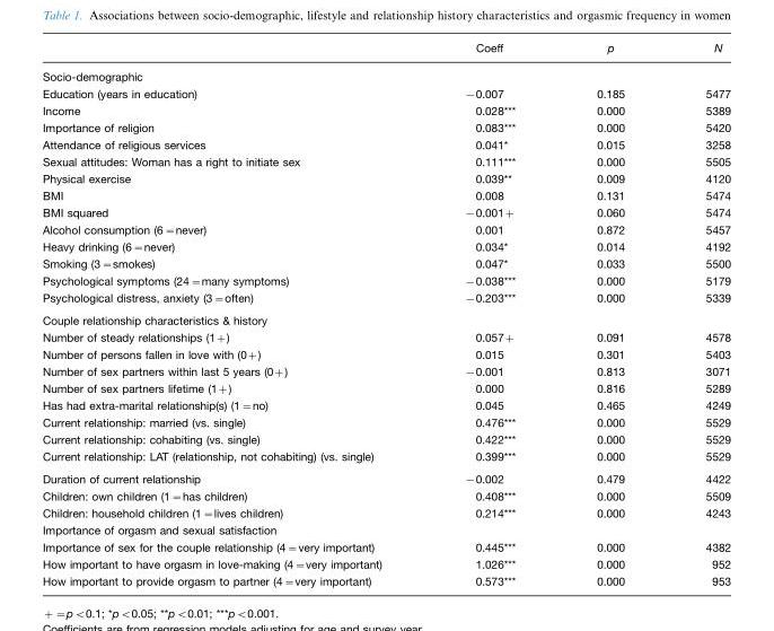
<table><thead><tr><td></td><td>Coeff</td><td>p</td><td>N</td></tr></thead><tbody><tr><td colspan="4">Socio-demographic</td></tr><tr><td>Education (years in education)</td><td>−0.007</td><td>0.185</td><td>5477</td></tr><tr><td>Income</td><td>0.028***</td><td>0.000</td><td>5389</td></tr><tr><td>Importance of religion</td><td>0.083***</td><td>0.000</td><td>5420</td></tr><tr><td>Attendance of religious services</td><td>0.041*</td><td>0.015</td><td>3258</td></tr><tr><td>Sexual attitudes: Woman has a right to initiate sex</td><td>0.111***</td><td>0.000</td><td>5505</td></tr><tr><td>Physical exercise</td><td>0.039**</td><td>0.009</td><td>4120</td></tr><tr><td>BMI</td><td>0.008</td><td>0.131</td><td>5474</td></tr><tr><td>BMI squared</td><td>−0.001+</td><td>0.060</td><td>5474</td></tr><tr><td>Alcohol consumption (6=never)</td><td>0.001</td><td>0.872</td><td>5457</td></tr><tr><td>Heavy drinking (6=never)</td><td>0.034*</td><td>0.014</td><td>4192</td></tr><tr><td>Smoking (3=smokes)</td><td>0.047*</td><td>0.033</td><td>5500</td></tr><tr><td>Psychological symptoms (24=many symptoms)</td><td>−0.038***</td><td>0.000</td><td>5179</td></tr><tr><td>Psychological distress, anxiety (3=often)</td><td>−0.203***</td><td>0.000</td><td>5339</td></tr><tr><td colspan="4">Couple relationship characteristics &amp; history</td></tr><tr><td>Number of steady relationships (1+)</td><td>0.057+</td><td>0.091</td><td>4578</td></tr><tr><td>Number of persons fallen in love with (0+)</td><td>0.015</td><td>0.301</td><td>5403</td></tr><tr><td>Number of sex partners within last 5 years (0+)</td><td>−0.001</td><td>0.813</td><td>3071</td></tr><tr><td>Number of sex partners lifetime (1+)</td><td>0.000</td><td>0.816</td><td>5289</td></tr><tr><td>Has had extra-marital relationship(s) (1=no)</td><td>0.045</td><td>0.465</td><td>4249</td></tr><tr><td>Current relationship: married (vs. single)</td><td>0.476***</td><td>0.000</td><td>5529</td></tr><tr><td>Current relationship: cohabiting (vs. single)</td><td>0.422***</td><td>0.000</td><td>5529</td></tr><tr><td>Current relationship: LAT (relationship, not cohabiting) (vs. single)</td><td>0.399***</td><td>0.000</td><td>5529</td></tr><tr><td>Duration of current relationship</td><td>−0.002</td><td>0.479</td><td>4422</td></tr><tr><td>Children: own children (1=has children)</td><td>0.408***</td><td>0.000</td><td>5509</td></tr><tr><td>Children: household children (1=lives children)</td><td>0.214***</td><td>0.000</td><td>4243</td></tr><tr><td colspan="4">Importance of orgasm and sexual satisfaction</td></tr><tr><td>Importance of sex for the couple relationship (4=very important)</td><td>0.445***</td><td>0.000</td><td>4382</td></tr><tr><td>How important to have orgasm in love-making (4=very important)</td><td>1.026***</td><td>0.000</td><td>952</td></tr><tr><td>How important to provide orgasm to partner (4=very important)</td><td>0.573***</td><td>0.000</td><td>953</td></tr></tbody></table>